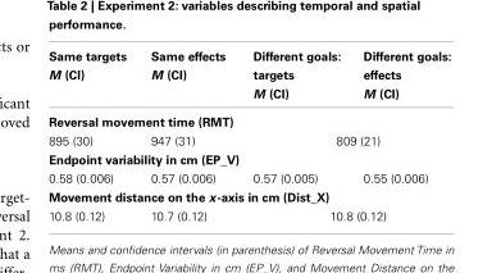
<table><thead><tr><td>Same targets M (CI)</td><td>Same effects M (CI)</td><td>Different goals: targets M (CI)</td><td>Different goals: effects M (CI)</td></tr></thead><tbody><tr><td colspan="4">Reversal movement time (RMT)</td></tr><tr><td>895 (30)</td><td>947 (31)</td><td colspan="2">809 (21)</td></tr><tr><td colspan="4">Endpoint variability in cm (EP_V)</td></tr><tr><td>0.58 (0.006)</td><td>0.57 (0.006)</td><td>0.57 (0.005)</td><td>0.55 (0.006)</td></tr><tr><td colspan="4">Movement distance on the x-axis in cm (Dist_X)</td></tr><tr><td>10.8 (0.12)</td><td>10.7 (0.12)</td><td colspan="2">10.8 (0.12)</td></tr></tbody></table>